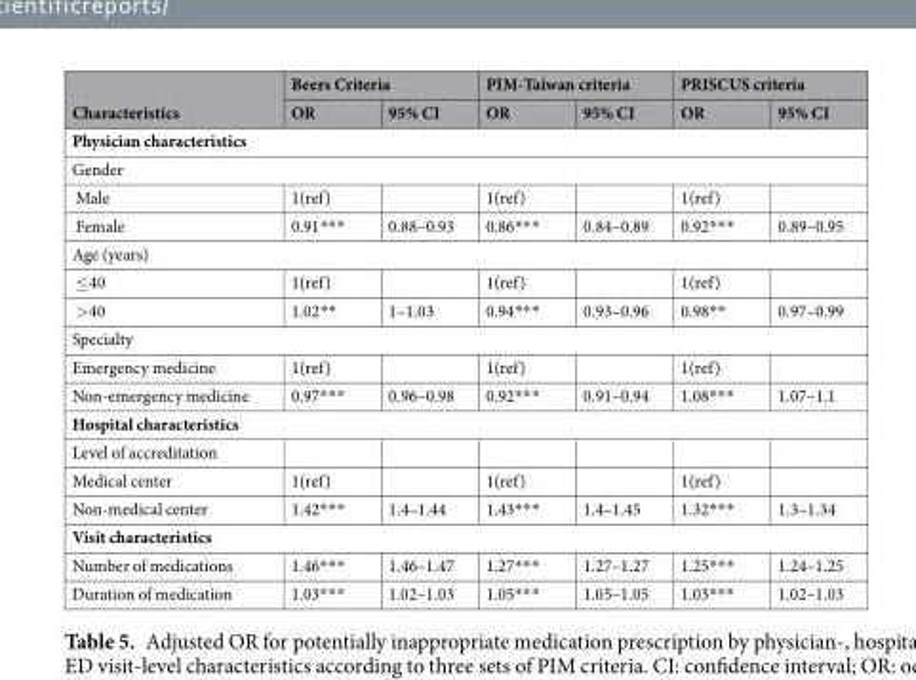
<table><thead><tr><td rowspan="2">Characteristics</td><td colspan="2">Beers Criteria</td><td colspan="2">PIM-Taiwan criteria</td><td colspan="2">PRISCUS criteria</td></tr><tr><td>OR</td><td>95% CI</td><td>OR</td><td>95% CI</td><td>OR</td><td>95% CI</td></tr></thead><tbody><tr><td colspan="7">Physician characteristics</td></tr><tr><td colspan="7">Gender</td></tr><tr><td>Male</td><td>1(ref)</td><td></td><td>1(ref)</td><td></td><td>1(ref)</td><td></td></tr><tr><td>Female</td><td>0.91***</td><td>0.88–0.93</td><td>0.86***</td><td>0.84–0.89</td><td>0.92***</td><td>0.89–0.95</td></tr><tr><td colspan="7">Age (years)</td></tr><tr><td>≤40</td><td>1(ref)</td><td></td><td>1(ref)</td><td></td><td>1(ref)</td><td></td></tr><tr><td>&gt;40</td><td>1.02**</td><td>1–1.03</td><td>0.94***</td><td>0.93–0.96</td><td>0.98**</td><td>0.97–0.99</td></tr><tr><td colspan="7">Specialty</td></tr><tr><td>Emergency medicine</td><td>1(ref)</td><td></td><td>1(ref)</td><td></td><td>1(ref)</td><td></td></tr><tr><td>Non-emergency medicine</td><td>0.97***</td><td>0.96–0.98</td><td>0.92***</td><td>0.91–0.94</td><td>1.08***</td><td>1.07–1.1</td></tr><tr><td colspan="7">Hospital characteristics</td></tr><tr><td colspan="7">Level of accreditation</td></tr><tr><td>Medical center</td><td>1(ref)</td><td></td><td>1(ref)</td><td></td><td>1(ref)</td><td></td></tr><tr><td>Non-medical center</td><td>1.42***</td><td>1.4–1.44</td><td>1.43***</td><td>1.4–1.45</td><td>1.32***</td><td>1.3–1.34</td></tr><tr><td colspan="7">Visit characteristics</td></tr><tr><td>Number of medications</td><td>1.46***</td><td>1.46–1.47</td><td>1.27***</td><td>1.27–1.27</td><td>1.25***</td><td>1.24–1.25</td></tr><tr><td>Duration of medication</td><td>1.03***</td><td>1.02–1.03</td><td>1.05***</td><td>1.05–1.05</td><td>1.03***</td><td>1.02–1.03</td></tr></tbody></table>